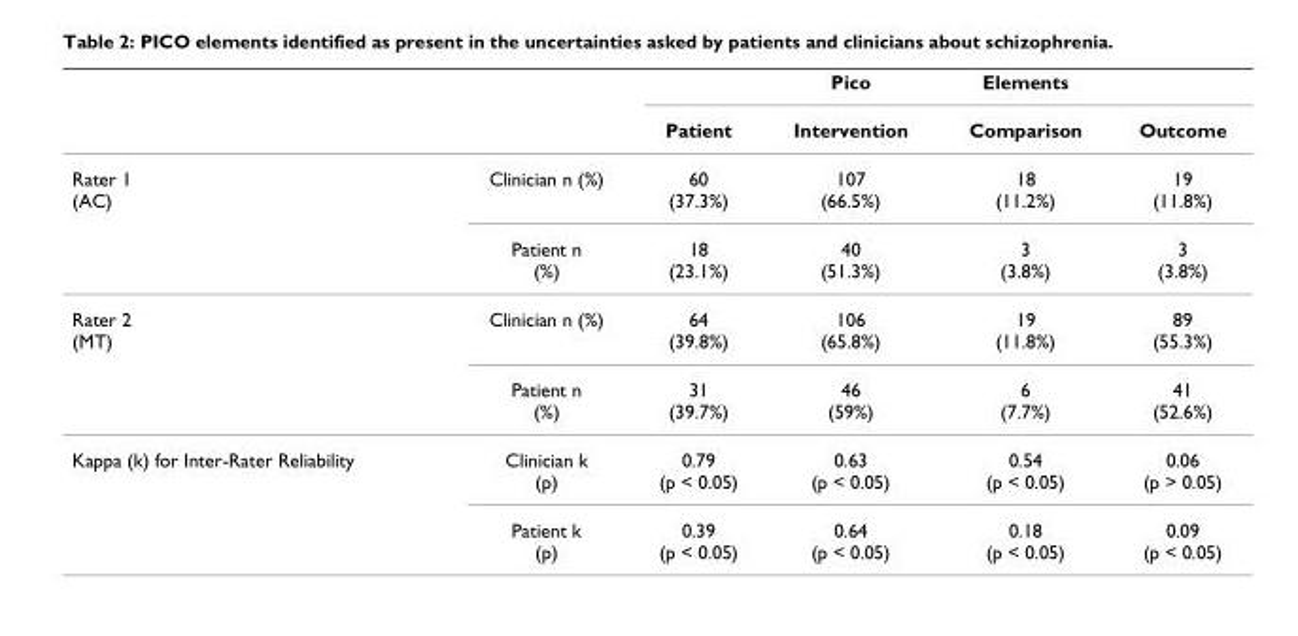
<table><thead><tr><td rowspan="2"></td><td rowspan="2"></td><td rowspan="2">Patient</td><td rowspan="2">Pico Intervention</td><td rowspan="2">Elements Comparison</td><td rowspan="2">Outcome</td></tr><tr></tr></thead><tbody><tr><td rowspan="2">Rater 1 (AC)</td><td>Clinician n (%)</td><td>60 (37.3%)</td><td>107 (66.5%)</td><td>18 (11.2%)</td><td>19 (11.8%)</td></tr><tr><td>Patient n (%)</td><td>18 (23.1%)</td><td>40 (51.3%)</td><td>3 (3.8%)</td><td>3 (3.8%)</td></tr><tr><td rowspan="2">Rater 2 (MT)</td><td>Clinician n (%)</td><td>64 (39.8%)</td><td>106 (65.8%)</td><td>19 (11.8%)</td><td>89 (55.3%)</td></tr><tr><td>Patient n (%)</td><td>31 (39.7%)</td><td>46 (59%)</td><td>6 (7.7%)</td><td>41 (52.6%)</td></tr><tr><td rowspan="2">Kappa (k) for Inter-Rater Reliability</td><td>Clinician k (p)</td><td>0.79 (p &lt; 0.05)</td><td>0.63 (p &lt; 0.05)</td><td>0.54 (p &lt; 0.05)</td><td>0.06 (p &gt; 0.05)</td></tr><tr><td>Patient k (p)</td><td>0.39 (p &lt; 0.05)</td><td>0.64 (p &lt; 0.05)</td><td>0.18 (p &lt; 0.05)</td><td>0.09 (p &lt; 0.05)</td></tr></tbody></table>